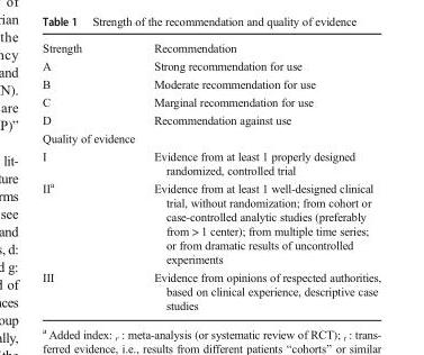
<table><tbody><tr><td>Strength</td><td>Recommendation</td></tr><tr><td>A</td><td>Strong recommendation for use</td></tr><tr><td>B</td><td>Moderate recommendation for use</td></tr><tr><td>C</td><td>Marginal recommendation for use</td></tr><tr><td>D</td><td>Recommendation against use</td></tr><tr><td colspan="2">Quality of evidence</td></tr><tr><td>I</td><td>Evidence from at least 1 properly designed randomized, controlled trial</td></tr><tr><td>II<sup>a</sup></td><td>Evidence from at least 1 well-designed clinical trial, without randomization; from cohort or case-controlled analytic studies (preferably from &gt; 1 center); from multiple time series; or from dramatic results of uncontrolled experiments</td></tr><tr><td>III</td><td>Evidence from opinions of respected authorities, based on clinical experience, descriptive case studies</td></tr></tbody></table>